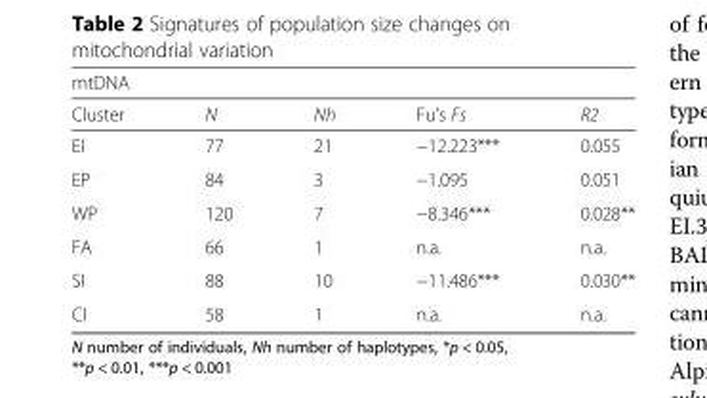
<table><thead><tr><td colspan="5">mtDNA</td></tr><tr><td>Cluster</td><td>N</td><td>Nh</td><td>Fu’s Fs</td><td>R2</td></tr></thead><tbody><tr><td>EI</td><td>77</td><td>21</td><td>−12.223***</td><td>0.055</td></tr><tr><td>EP</td><td>84</td><td>3</td><td>−1.095</td><td>0.051</td></tr><tr><td>WP</td><td>120</td><td>7</td><td>−8.346***</td><td>0.028**</td></tr><tr><td>FA</td><td>66</td><td>1</td><td>n.a.</td><td>n.a.</td></tr><tr><td>SI</td><td>88</td><td>10</td><td>−11.486***</td><td>0.030**</td></tr><tr><td>CI</td><td>58</td><td>1</td><td>n.a.</td><td>n.a.</td></tr></tbody></table>